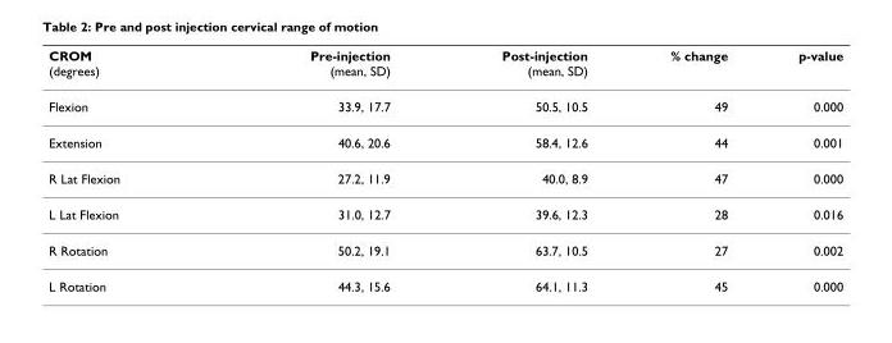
<table><thead><tr><td>CROM (degrees)</td><td>Pre-injection (mean, SD)</td><td>Post-injection (mean, SD)</td><td>% change</td><td>p-value</td></tr></thead><tbody><tr><td>Flexion</td><td>33.9, 17.7</td><td>50.5, 10.5</td><td>49</td><td>0.000</td></tr><tr><td>Extension</td><td>40.6, 20.6</td><td>58.4, 12.6</td><td>44</td><td>0.001</td></tr><tr><td>R Lat Flexion</td><td>27.2, 11.9</td><td>40.0, 8.9</td><td>47</td><td>0.000</td></tr><tr><td>L Lat Flexion</td><td>31.0, 12.7</td><td>39.6, 12.3</td><td>28</td><td>0.016</td></tr><tr><td>R Rotation</td><td>50.2, 19.1</td><td>63.7, 10.5</td><td>27</td><td>0.002</td></tr><tr><td>L Rotation</td><td>44.3, 15.6</td><td>64.1, 11.3</td><td>45</td><td>0.000</td></tr></tbody></table>